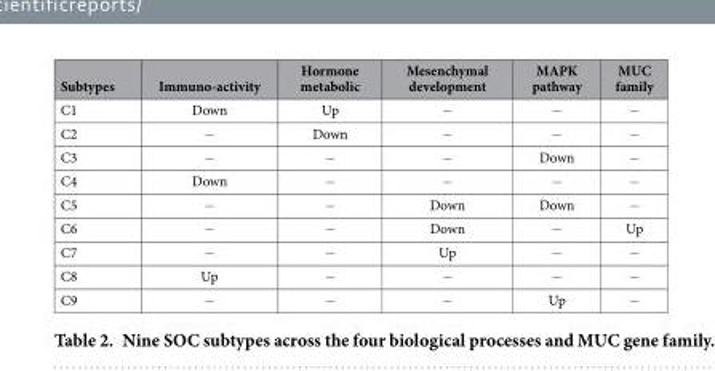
<table><thead><tr><td>Subtypes</td><td>Immuno-activity</td><td>Hormone metabolic</td><td>Mesenchymal development</td><td>MAPK pathway</td><td>MUC family</td></tr></thead><tbody><tr><td>C1</td><td>Down</td><td>Up</td><td>−</td><td>−</td><td>−</td></tr><tr><td>C2</td><td>−</td><td>Down</td><td>−</td><td>−</td><td>−</td></tr><tr><td>C3</td><td>−</td><td>−</td><td>−</td><td>Down</td><td>−</td></tr><tr><td>C4</td><td>Down</td><td>−</td><td>−</td><td>−</td><td>−</td></tr><tr><td>C5</td><td>−</td><td>−</td><td>Down</td><td>Down</td><td>−</td></tr><tr><td>C6</td><td>−</td><td>−</td><td>Down</td><td>−</td><td>Up</td></tr><tr><td>C7</td><td>−</td><td>−</td><td>Up</td><td>−</td><td>−</td></tr><tr><td>C8</td><td>Up</td><td>−</td><td>−</td><td>−</td><td>−</td></tr><tr><td>C9</td><td>−</td><td>−</td><td>−</td><td>Up</td><td>−</td></tr></tbody></table>